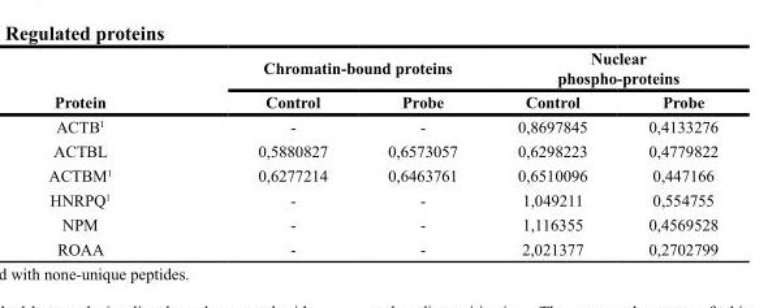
<table><thead><tr><td rowspan="2">Protein</td><td colspan="2">Chromatin-bound proteins</td><td colspan="2">Nuclear phospho-proteins</td></tr><tr><td>Control</td><td>Probe</td><td>Control</td><td>Probe</td></tr></thead><tbody><tr><td>ACTB<sup>1</sup></td><td>-</td><td>-</td><td>0,8697845</td><td>0,4133276</td></tr><tr><td>ACTBL</td><td>0,5880827</td><td>0,6573057</td><td>0,6298223</td><td>0,4779822</td></tr><tr><td>ACTBM<sup>1</sup></td><td>0,6277214</td><td>0,6463761</td><td>0,6510096</td><td>0,447166</td></tr><tr><td>HNRPQ<sup>1</sup></td><td>-</td><td>-</td><td>1,049211</td><td>0,554755</td></tr><tr><td>NPM</td><td>-</td><td>-</td><td>1,116355</td><td>0,4569528</td></tr><tr><td>ROAA</td><td>-</td><td>-</td><td>2,021377</td><td>0,2702799</td></tr></tbody></table>